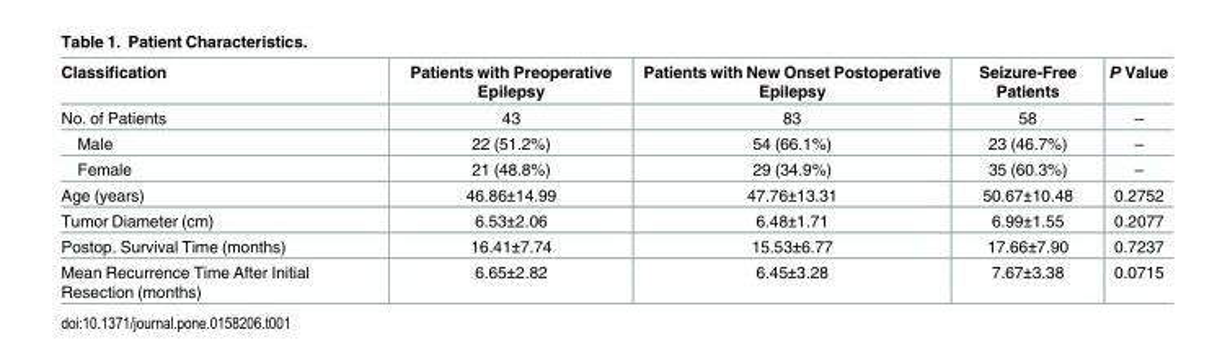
<table><thead><tr><td>Classification</td><td>Patients with Preoperative Epilepsy</td><td>Patients with New Onset Postoperative Epilepsy</td><td>Seizure-Free Patients</td><td>P Value</td></tr></thead><tbody><tr><td>No. of Patients</td><td>43</td><td>83</td><td>58</td><td>–</td></tr><tr><td>Male</td><td>22 (51.2%)</td><td>54 (66.1%)</td><td>23 (46.7%)</td><td>–</td></tr><tr><td>Female</td><td>21 (48.8%)</td><td>29 (34.9%)</td><td>35 (60.3%)</td><td>–</td></tr><tr><td>Age (years)</td><td>46.86±14.99</td><td>47.76±13.31</td><td>50.67±10.48</td><td>0.2752</td></tr><tr><td>Tumor Diameter (cm)</td><td>6.53±2.06</td><td>6.48±1.71</td><td>6.99±1.55</td><td>0.2077</td></tr><tr><td>Postop. Survival Time (months)</td><td>16.41±7.74</td><td>15.53±6.77</td><td>17.66±7.90</td><td>0.7237</td></tr><tr><td>Mean Recurrence Time After Initial Resection (months)</td><td>6.65±2.82</td><td>6.45±3.28</td><td>7.67±3.38</td><td>0.0715</td></tr></tbody></table>